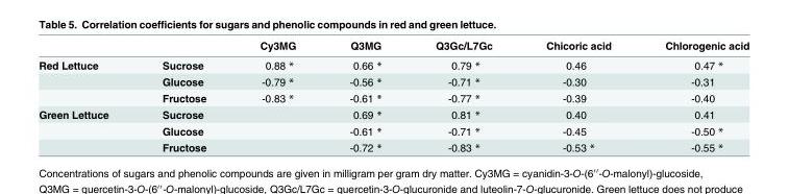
<table><thead><tr><td></td><td></td><td>Cy3MG</td><td>Q3MG</td><td>Q3Gc/L7Gc</td><td>Chicoric acid</td><td>Chlorogenic acid</td></tr></thead><tbody><tr><td rowspan="3">Red Lettuce</td><td>Sucrose</td><td>0.88 *</td><td>0.66 *</td><td>0.79 *</td><td>0.46</td><td>0.47 *</td></tr><tr><td>Glucose</td><td>-0.79 *</td><td>-0.56 *</td><td>-0.71 *</td><td>-0.30</td><td>-0.31</td></tr><tr><td>Fructose</td><td>-0.83 *</td><td>-0.61 *</td><td>-0.77 *</td><td>-0.39</td><td>-0.40</td></tr><tr><td rowspan="3">Green Lettuce</td><td>Sucrose</td><td></td><td>0.69 *</td><td>0.81 *</td><td>0.40</td><td>0.41</td></tr><tr><td>Glucose</td><td></td><td>-0.61 *</td><td>-0.71 *</td><td>-0.45</td><td>-0.50 *</td></tr><tr><td>Fructose</td><td></td><td>-0.72 *</td><td>-0.83 *</td><td>-0.53 *</td><td>-0.55 *</td></tr></tbody></table>